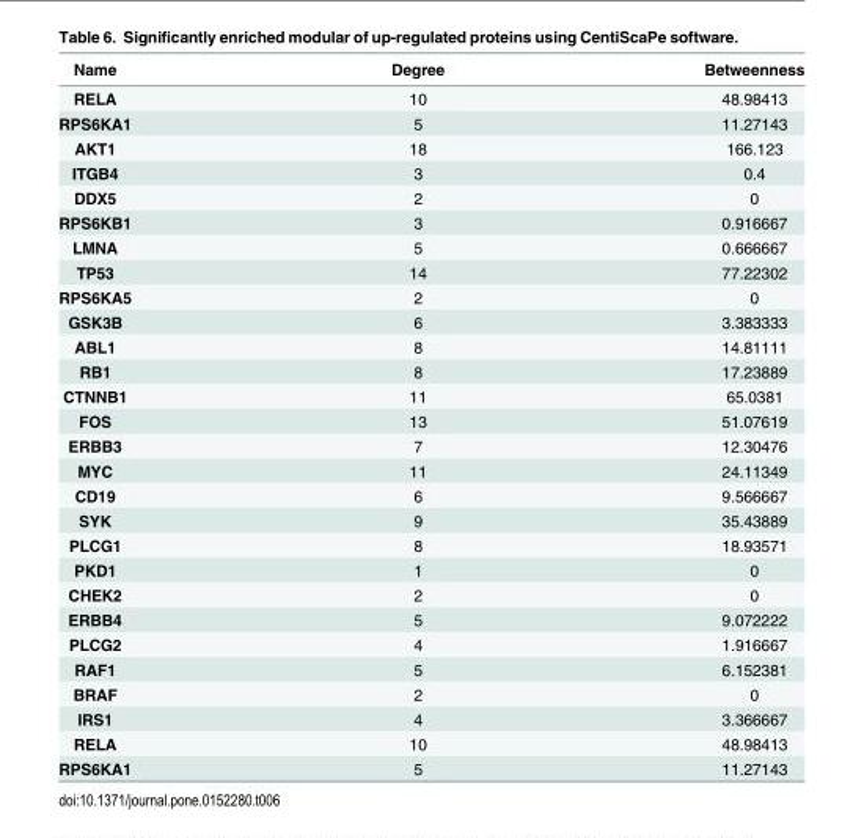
<table><thead><tr><td>Name</td><td>Degree</td><td>Betweenness</td></tr></thead><tbody><tr><td>RELA</td><td>10</td><td>48.98413</td></tr><tr><td>RPS6KA1</td><td>5</td><td>11.27143</td></tr><tr><td>AKT1</td><td>18</td><td>166.123</td></tr><tr><td>ITGB4</td><td>3</td><td>0.4</td></tr><tr><td>DDX5</td><td>2</td><td>0</td></tr><tr><td>RPS6KB1</td><td>3</td><td>0.916667</td></tr><tr><td>LMNA</td><td>5</td><td>0.666667</td></tr><tr><td>TP53</td><td>14</td><td>77.22302</td></tr><tr><td>RPS6KA5</td><td>2</td><td>0</td></tr><tr><td>GSK3B</td><td>6</td><td>3.383333</td></tr><tr><td>ABL1</td><td>8</td><td>14.81111</td></tr><tr><td>RB1</td><td>8</td><td>17.23889</td></tr><tr><td>CTNNB1</td><td>11</td><td>65.0381</td></tr><tr><td>FOS</td><td>13</td><td>51.07619</td></tr><tr><td>ERBB3</td><td>7</td><td>12.30476</td></tr><tr><td>MYC</td><td>11</td><td>24.11349</td></tr><tr><td>CD19</td><td>6</td><td>9.566667</td></tr><tr><td>SYK</td><td>9</td><td>35.43889</td></tr><tr><td>PLCG1</td><td>8</td><td>18.93571</td></tr><tr><td>PKD1</td><td>1</td><td>0</td></tr><tr><td>CHEK2</td><td>2</td><td>0</td></tr><tr><td>ERBB4</td><td>5</td><td>9.072222</td></tr><tr><td>PLCG2</td><td>4</td><td>1.916667</td></tr><tr><td>RAF1</td><td>5</td><td>6.152381</td></tr><tr><td>BRAF</td><td>2</td><td>0</td></tr><tr><td>IRS1</td><td>4</td><td>3.366667</td></tr><tr><td>RELA</td><td>10</td><td>48.98413</td></tr><tr><td>RPS6KA1</td><td>5</td><td>11.27143</td></tr></tbody></table>